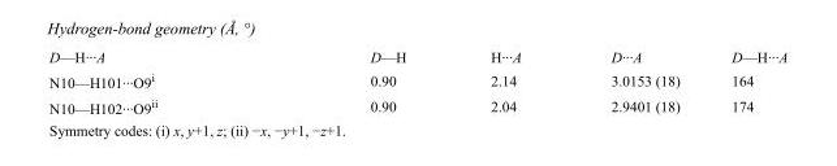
<table><tbody><tr><td>D—H···A</td><td>D—H</td><td>H···A</td><td>D···A</td><td>D—H···A</td></tr><tr><td>N10—H101···O9<sup>i</sup></td><td>0.90</td><td>2.14</td><td>3.0153 (18)</td><td>164</td></tr><tr><td>N10—H102···O9<sup>ii</sup></td><td>0.90</td><td>2.04</td><td>2.9401 (18)</td><td>174</td></tr></tbody></table>